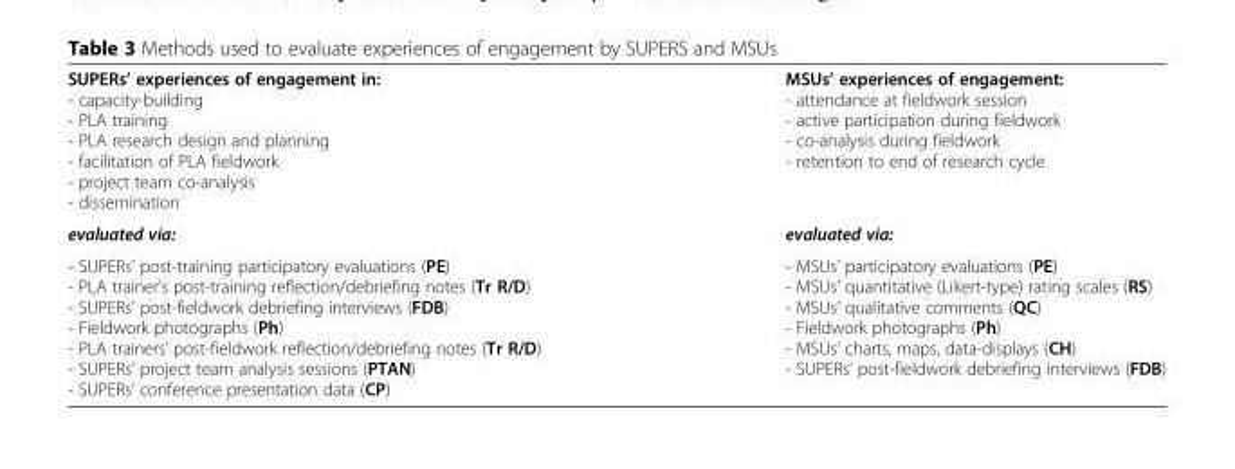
<table><tbody><tr><td>SUPERs’ experiences of engagement in: - capacity-building - PLA training - PLA research design and planning - facilitation of PLA fieldwork - project team co-analysis - dissemination</td><td>MSUs’ experiences of engagement: - attendance at fieldwork session - active participation during fieldwork - co-analysis during fieldwork - retention to end of research cycle</td></tr><tr><td>evaluated via:</td><td>evaluated via:</td></tr><tr><td>- SUPERs’ post-training participatory evaluations (PE) - PLA trainer’s post-training reflection/debriefing notes (Tr R/D) - SUPERs’ post-fieldwork debriefing interviews (FDB) - Fieldwork photographs (Ph) - PLA trainers’ post-fieldwork reflection/debriefing notes (Tr R/D) - SUPERs’ project team analysis sessions (PTAN) - SUPERs’ conference presentation data (CP)</td><td>- MSUs’ participatory evaluations (PE) - MSUs’ quantitative (Likert-type) rating scales (RS) - MSUs’ qualitative comments (QC) - Fieldwork photographs (Ph) - MSUs’ charts, maps, data-displays (CH) - SUPERs’ post-fieldwork debriefing interviews (FDB)</td></tr></tbody></table>